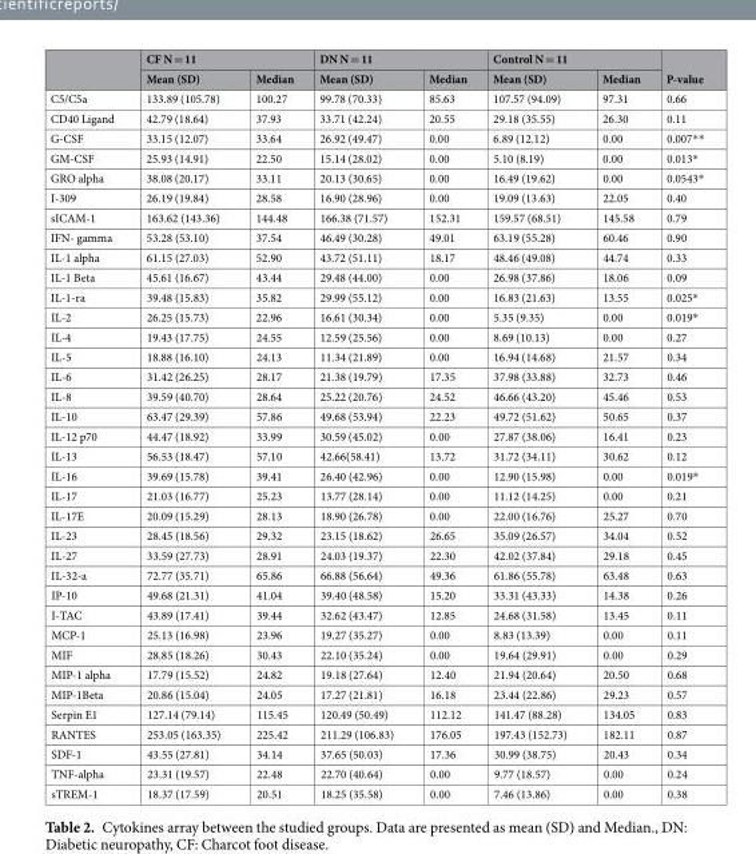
<table><thead><tr><td rowspan="2"></td><td colspan="2">CF N = 11</td><td colspan="2">DN N = 11</td><td colspan="2">Control N = 11</td><td rowspan="2">P-value</td></tr><tr><td>Mean (SD)</td><td>Median</td><td>Mean (SD)</td><td>Median</td><td>Mean (SD)</td><td>Median</td></tr></thead><tbody><tr><td>C5/C5a</td><td>133.89 (105.78)</td><td>100.27</td><td>99.78 (70.33)</td><td>85.63</td><td>107.57 (94.09)</td><td>97.31</td><td>0.66</td></tr><tr><td>CD40 Ligand</td><td>42.79 (18.64)</td><td>37.93</td><td>33.71 (42.24)</td><td>20.55</td><td>29.18 (35.55)</td><td>26.30</td><td>0.11</td></tr><tr><td>G-CSF</td><td>33.15 (12.07)</td><td>33.64</td><td>26.92 (49.47)</td><td>0.00</td><td>6.89 (12.12)</td><td>0.00</td><td>0.007**</td></tr><tr><td>GM-CSF</td><td>25.93 (14.91)</td><td>22.50</td><td>15.14 (28.02)</td><td>0.00</td><td>5.10 (8.19)</td><td>0.00</td><td>0.013*</td></tr><tr><td>GRO alpha</td><td>38.08 (20.17)</td><td>33.11</td><td>20.13 (30.65)</td><td>0.00</td><td>16.49 (19.62)</td><td>0.00</td><td>0.0543*</td></tr><tr><td>I-309</td><td>26.19 (19.84)</td><td>28.58</td><td>16.90 (28.96)</td><td>0.00</td><td>19.09 (13.63)</td><td>22.05</td><td>0.40</td></tr><tr><td>sICAM-1</td><td>163.62 (143.36)</td><td>144.48</td><td>166.38 (71.57)</td><td>152.31</td><td>159.57 (68.51)</td><td>145.58</td><td>0.79</td></tr><tr><td>IFN- gamma</td><td>53.28 (53.10)</td><td>37.54</td><td>46.49 (30.28)</td><td>49.01</td><td>63.19 (55.28)</td><td>60.46</td><td>0.90</td></tr><tr><td>IL-1 alpha</td><td>61.15 (27.03)</td><td>52.90</td><td>43.72 (51.11)</td><td>18.17</td><td>48.46 (49.08)</td><td>44.74</td><td>0.33</td></tr><tr><td>IL-1 Beta</td><td>45.61 (16.67)</td><td>43.44</td><td>29.48 (44.00)</td><td>0.00</td><td>26.98 (37.86)</td><td>18.06</td><td>0.09</td></tr><tr><td>IL-1-ra</td><td>39.48 (15.83)</td><td>35.82</td><td>29.99 (55.12)</td><td>0.00</td><td>16.83 (21.63)</td><td>13.55</td><td>0.025*</td></tr><tr><td>IL-2</td><td>26.25 (15.73)</td><td>22.96</td><td>16.61 (30.34)</td><td>0.00</td><td>5.35 (9.35)</td><td>0.00</td><td>0.019*</td></tr><tr><td>IL-4</td><td>19.43 (17.75)</td><td>24.55</td><td>12.59 (25.56)</td><td>0.00</td><td>8.69 (10.13)</td><td>0.00</td><td>0.27</td></tr><tr><td>IL-5</td><td>18.88 (16.10)</td><td>24.13</td><td>11.34 (21.89)</td><td>0.00</td><td>16.94 (14.68)</td><td>21.57</td><td>0.34</td></tr><tr><td>IL-6</td><td>31.42 (26.25)</td><td>28.17</td><td>21.38 (19.79)</td><td>17.35</td><td>37.98 (33.88)</td><td>32.73</td><td>0.46</td></tr><tr><td>IL-8</td><td>39.59 (40.70)</td><td>28.64</td><td>25.22 (20.76)</td><td>24.52</td><td>46.66 (43.20)</td><td>45.46</td><td>0.53</td></tr><tr><td>IL-10</td><td>63.47 (29.39)</td><td>57.86</td><td>49.68 (53.94)</td><td>22.23</td><td>49.72 (51.62)</td><td>50.65</td><td>0.37</td></tr><tr><td>IL-12 p70</td><td>44.47 (18.92)</td><td>33.99</td><td>30.59 (45.02)</td><td>0.00</td><td>27.87 (38.06)</td><td>16.41</td><td>0.23</td></tr><tr><td>IL-13</td><td>56.53 (18.47)</td><td>57.10</td><td>42.66(58.41)</td><td>13.72</td><td>31.72 (34.11)</td><td>30.62</td><td>0.12</td></tr><tr><td>IL-16</td><td>39.69 (15.78)</td><td>39.41</td><td>26.40 (42.96)</td><td>0.00</td><td>12.90 (15.98)</td><td>0.00</td><td>0.019*</td></tr><tr><td>IL-17</td><td>21.03 (16.77)</td><td>25.23</td><td>13.77 (28.14)</td><td>0.00</td><td>11.12 (14.25)</td><td>0.00</td><td>0.21</td></tr><tr><td>IL-17E</td><td>20.09 (15.29)</td><td>28.13</td><td>18.90 (26.78)</td><td>0.00</td><td>22.00 (16.76)</td><td>25.27</td><td>0.70</td></tr><tr><td>IL-23</td><td>28.45 (18.56)</td><td>29.32</td><td>23.15 (18.62)</td><td>26.65</td><td>35.09 (26.57)</td><td>34.04</td><td>0.52</td></tr><tr><td>IL-27</td><td>33.59 (27.73)</td><td>28.91</td><td>24.03 (19.37)</td><td>22.30</td><td>42.02 (37.84)</td><td>29.18</td><td>0.45</td></tr><tr><td>IL-32-a</td><td>72.77 (35.71)</td><td>65.86</td><td>66.88 (56.64)</td><td>49.36</td><td>61.86 (55.78)</td><td>63.48</td><td>0.63</td></tr><tr><td>IP-10</td><td>49.68 (21.31)</td><td>41.04</td><td>39.40 (48.58)</td><td>15.20</td><td>33.31 (43.33)</td><td>14.38</td><td>0.26</td></tr><tr><td>I-TAC</td><td>43.89 (17.41)</td><td>39.44</td><td>32.62 (43.47)</td><td>12.85</td><td>24.68 (31.58)</td><td>13.45</td><td>0.11</td></tr><tr><td>MCP-1</td><td>25.13 (16.98)</td><td>23.96</td><td>19.27 (35.27)</td><td>0.00</td><td>8.83 (13.39)</td><td>0.00</td><td>0.11</td></tr><tr><td>MIF</td><td>28.85 (18.26)</td><td>30.43</td><td>22.10 (35.24)</td><td>0.00</td><td>19.64 (29.91)</td><td>0.00</td><td>0.29</td></tr><tr><td>MIP-1 alpha</td><td>17.79 (15.52)</td><td>24.82</td><td>19.18 (27.64)</td><td>12.40</td><td>21.94 (20.64)</td><td>20.50</td><td>0.68</td></tr><tr><td>MIP-1Beta</td><td>20.86 (15.04)</td><td>24.05</td><td>17.27 (21.81)</td><td>16.18</td><td>23.44 (22.86)</td><td>29.23</td><td>0.57</td></tr><tr><td>Serpin E1</td><td>127.14 (79.14)</td><td>115.45</td><td>120.49 (50.49)</td><td>112.12</td><td>141.47 (88.28)</td><td>134.05</td><td>0.83</td></tr><tr><td>RANTES</td><td>253.05 (163.35)</td><td>225.42</td><td>211.29 (106.83)</td><td>176.05</td><td>197.43 (152.73)</td><td>182.11</td><td>0.87</td></tr><tr><td>SDF-1</td><td>43.55 (27.81)</td><td>34.14</td><td>37.65 (50.03)</td><td>17.36</td><td>30.99 (38.75)</td><td>20.43</td><td>0.34</td></tr><tr><td>TNF-alpha</td><td>23.31 (19.57)</td><td>22.48</td><td>22.70 (40.64)</td><td>0.00</td><td>9.77 (18.57)</td><td>0.00</td><td>0.24</td></tr><tr><td>sTREM-1</td><td>18.37 (17.59)</td><td>20.51</td><td>18.25 (35.58)</td><td>0.00</td><td>7.46 (13.86)</td><td>0.00</td><td>0.38</td></tr></tbody></table>